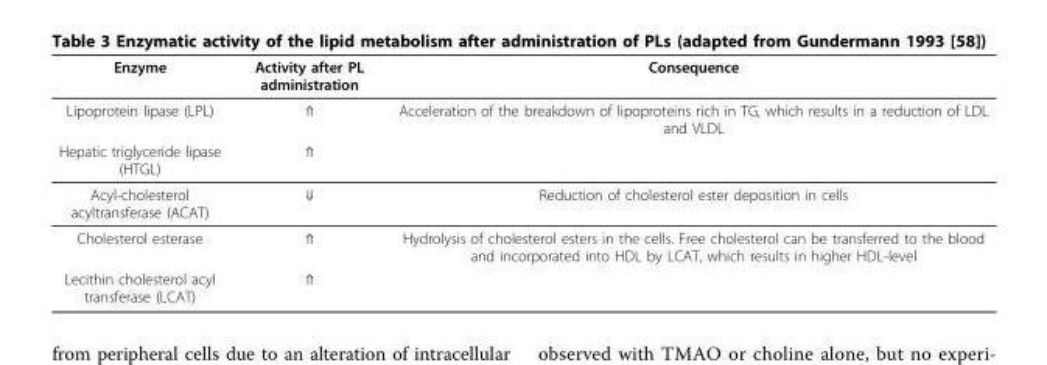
<table><thead><tr><td>Enzyme</td><td>Activity after PL administration</td><td>Consequence</td></tr></thead><tbody><tr><td>Lipoprotein lipase (LPL)</td><td>⇑</td><td>Acceleration of the breakdown of lipoproteins rich in TG, which results in a reduction of LDL and VLDL</td></tr><tr><td>Hepatic triglyceride lipase (HTGL)</td><td>⇑</td><td></td></tr><tr><td>Acyl-cholesterol acyltransferase (ACAT)</td><td>⇓</td><td>Reduction of cholesterol ester deposition in cells</td></tr><tr><td>Cholesterol esterase</td><td>⇑</td><td>Hydrolysis of cholesterol esters in the cells. Free cholesterol can be transferred to the blood and incorporated into HDL by LCAT, which results in higher HDL-level</td></tr><tr><td>Lecithin cholesterol acyl transferase (LCAT)</td><td>⇑</td><td></td></tr></tbody></table>